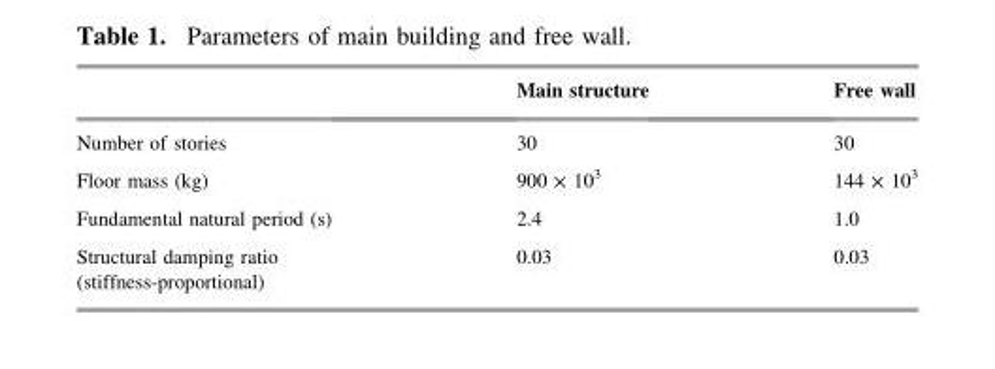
<table><thead><tr><td></td><td>Main structure</td><td>Free wall</td></tr></thead><tbody><tr><td>Number of stories</td><td>30</td><td>30</td></tr><tr><td>Floor mass (kg)</td><td>900 × 10<sup>3</sup></td><td>144 × 10<sup>3</sup></td></tr><tr><td>Fundamental natural period (s)</td><td>2.4</td><td>1.0</td></tr><tr><td>Structural damping ratio (stiffness-proportional)</td><td>0.03</td><td>0.03</td></tr></tbody></table>